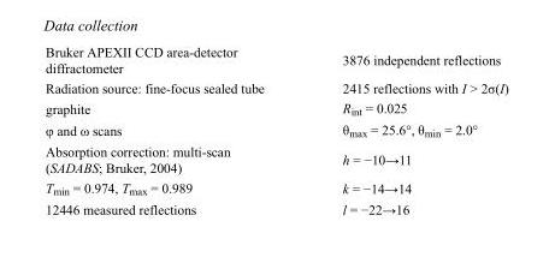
<table><tbody><tr><td>Bruker APEXII CCD area-detector diffractometer</td><td>3876 independent reflections</td></tr><tr><td>Radiation source: fine-focus sealed tube</td><td>2415 reflections with I &gt; 2σ(I)</td></tr><tr><td>graphite</td><td>R<sub>int</sub> = 0.025</td></tr><tr><td>φ and ω scans</td><td>θ<sub>max</sub> = 25.6°, θ<sub>min</sub> = 2.0°</td></tr><tr><td>Absorption correction: multi-scan (SADABS; Bruker, 2004)</td><td>h = −10→11</td></tr><tr><td>T<sub>min</sub> = 0.974, T<sub>max</sub> = 0.989</td><td>k = −14→14</td></tr><tr><td>12446 measured reflections</td><td>l = −22→16</td></tr></tbody></table>